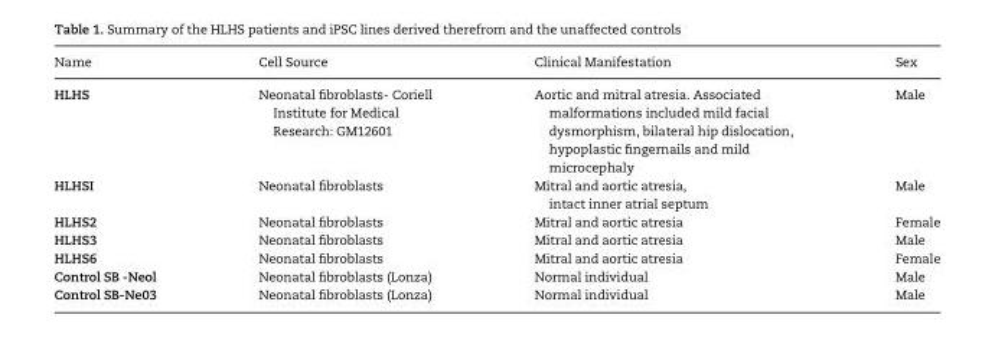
<table><thead><tr><td>Name</td><td>Cell Source</td><td>Clinical Manifestation</td><td>Sex</td></tr></thead><tbody><tr><td>HLHS</td><td>Neonatal fibroblasts- Coriell Institute for Medical Research: GM12601</td><td>Aortic and mitral atresia. Associated malformations included mild facial dysmorphism, bilateral hip dislocation, hypoplastic fingernails and mild microcephaly</td><td>Male</td></tr><tr><td>HLHSI</td><td>Neonatal fibroblasts</td><td>Mitral and aortic atresia, intact inner atrial septum</td><td>Male</td></tr><tr><td>HLHS2</td><td>Neonatal fibroblasts</td><td>Mitral and aortic atresia</td><td>Female</td></tr><tr><td>HLHS3</td><td>Neonatal fibroblasts</td><td>Mitral and aortic atresia</td><td>Male</td></tr><tr><td>HLHS6</td><td>Neonatal fibroblasts</td><td>Mitral and aortic atresia</td><td>Female</td></tr><tr><td>Control SB -Neol</td><td>Neonatal fibroblasts (Lonza)</td><td>Normal individual</td><td>Male</td></tr><tr><td>Control SB-Ne03</td><td>Neonatal fibroblasts (Lonza)</td><td>Normal individual</td><td>Male</td></tr></tbody></table>